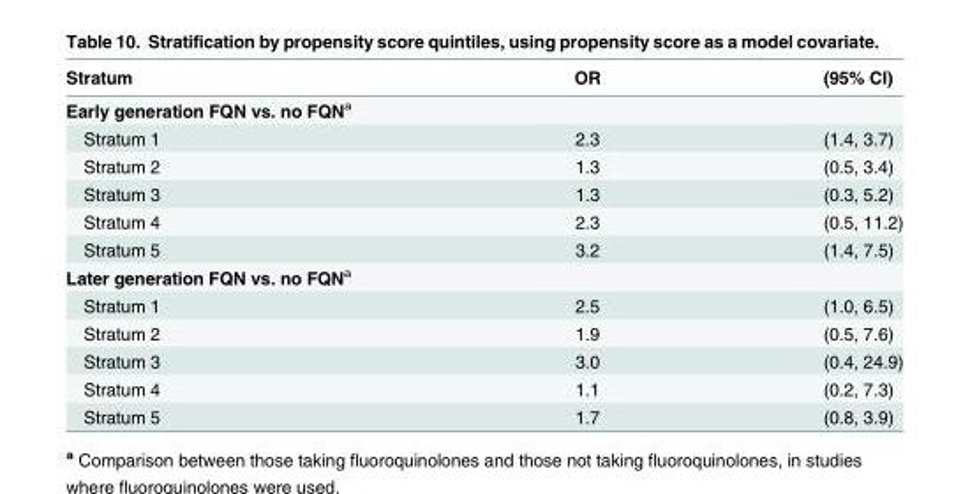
<table><thead><tr><td>Stratum</td><td>OR</td><td>(95% CI)</td></tr></thead><tbody><tr><td colspan="3">Early generation FQN vs. no FQN<sup>a</sup></td></tr><tr><td>Stratum 1</td><td>2.3</td><td>(1.4, 3.7)</td></tr><tr><td>Stratum 2</td><td>1.3</td><td>(0.5, 3.4)</td></tr><tr><td>Stratum 3</td><td>1.3</td><td>(0.3, 5.2)</td></tr><tr><td>Stratum 4</td><td>2.3</td><td>(0.5, 11.2)</td></tr><tr><td>Stratum 5</td><td>3.2</td><td>(1.4, 7.5)</td></tr><tr><td colspan="3">Later generation FQN vs. no FQN<sup>a</sup></td></tr><tr><td>Stratum 1</td><td>2.5</td><td>(1.0, 6.5)</td></tr><tr><td>Stratum 2</td><td>1.9</td><td>(0.5, 7.6)</td></tr><tr><td>Stratum 3</td><td>3.0</td><td>(0.4, 24.9)</td></tr><tr><td>Stratum 4</td><td>1.1</td><td>(0.2, 7.3)</td></tr><tr><td>Stratum 5</td><td>1.7</td><td>(0.8, 3.9)</td></tr></tbody></table>